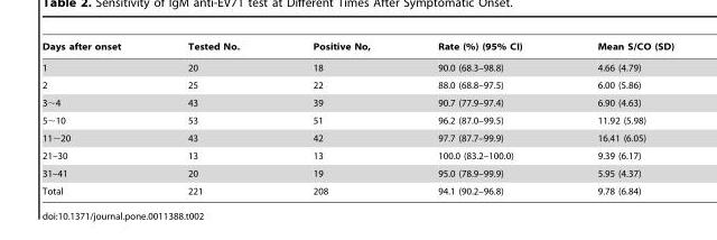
<table><thead><tr><td>Days after onset</td><td>Tested No.</td><td>Positive No,</td><td>Rate (%) (95% CI)</td><td>Mean S/CO (SD)</td></tr></thead><tbody><tr><td>1</td><td>20</td><td>18</td><td>90.0 (68.3–98.8)</td><td>4.66 (4.79)</td></tr><tr><td>2</td><td>25</td><td>22</td><td>88.0 (68.8–97.5)</td><td>6.00 (5.86)</td></tr><tr><td>3∼4</td><td>43</td><td>39</td><td>90.7 (77.9–97.4)</td><td>6.90 (4.63)</td></tr><tr><td>5∼10</td><td>53</td><td>51</td><td>96.2 (87.0–99.5)</td><td>11.92 (5.98)</td></tr><tr><td>11∼20</td><td>43</td><td>42</td><td>97.7 (87.7–99.9)</td><td>16.41 (6.05)</td></tr><tr><td>21–30</td><td>13</td><td>13</td><td>100.0 (83.2–100.0)</td><td>9.39 (6.17)</td></tr><tr><td>31–41</td><td>20</td><td>19</td><td>95.0 (78.9–99.9)</td><td>5.95 (4.37)</td></tr><tr><td>Total</td><td>221</td><td>208</td><td>94.1 (90.2–96.8)</td><td>9.78 (6.84)</td></tr></tbody></table>